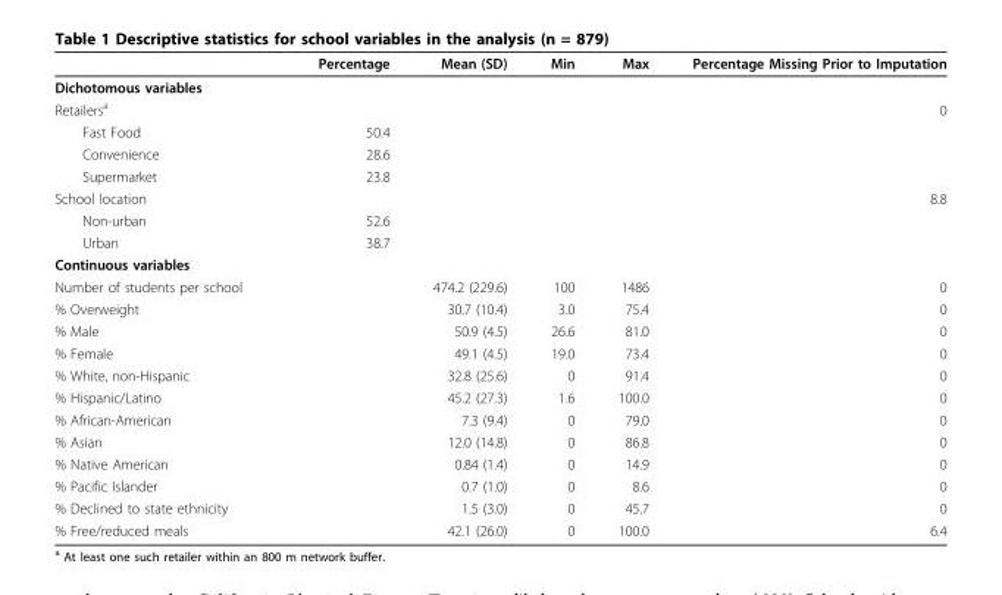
<table><thead><tr><td></td><td>Percentage</td><td>Mean (SD)</td><td>Min</td><td>Max</td><td>Percentage Missing Prior to Imputation</td></tr></thead><tbody><tr><td colspan="6">Dichotomous variables</td></tr><tr><td>Retailers<sup>a</sup></td><td></td><td></td><td></td><td></td><td>0</td></tr><tr><td>Fast Food</td><td>50.4</td><td></td><td></td><td></td><td></td></tr><tr><td>Convenience</td><td>28.6</td><td></td><td></td><td></td><td></td></tr><tr><td>Supermarket</td><td>23.8</td><td></td><td></td><td></td><td></td></tr><tr><td>School location</td><td></td><td></td><td></td><td></td><td>8.8</td></tr><tr><td>Non-urban</td><td>52.6</td><td></td><td></td><td></td><td></td></tr><tr><td>Urban</td><td>38.7</td><td></td><td></td><td></td><td></td></tr><tr><td colspan="6">Continuous variables</td></tr><tr><td>Number of students per school</td><td></td><td>474.2 (229.6)</td><td>100</td><td>1486</td><td>0</td></tr><tr><td>% Overweight</td><td></td><td>30.7 (10.4)</td><td>3.0</td><td>75.4</td><td>0</td></tr><tr><td>% Male</td><td></td><td>50.9 (4.5)</td><td>26.6</td><td>81.0</td><td>0</td></tr><tr><td>% Female</td><td></td><td>49.1 (4.5)</td><td>19.0</td><td>73.4</td><td>0</td></tr><tr><td>% White, non-Hispanic</td><td></td><td>32.8 (25.6)</td><td>0</td><td>91.4</td><td>0</td></tr><tr><td>% Hispanic/Latino</td><td></td><td>45.2 (27.3)</td><td>1.6</td><td>100.0</td><td>0</td></tr><tr><td>% African-American</td><td></td><td>7.3 (9.4)</td><td>0</td><td>79.0</td><td>0</td></tr><tr><td>% Asian</td><td></td><td>12.0 (14.8)</td><td>0</td><td>86.8</td><td>0</td></tr><tr><td>% Native American</td><td></td><td>0.84 (1.4)</td><td>0</td><td>14.9</td><td>0</td></tr><tr><td>% Pacific Islander</td><td></td><td>0.7 (1.0)</td><td>0</td><td>8.6</td><td>0</td></tr><tr><td>% Declined to state ethnicity</td><td></td><td>1.5 (3.0)</td><td>0</td><td>45.7</td><td>0</td></tr><tr><td>% Free/reduced meals</td><td></td><td>42.1 (26.0)</td><td>0</td><td>100.0</td><td>6.4</td></tr></tbody></table>